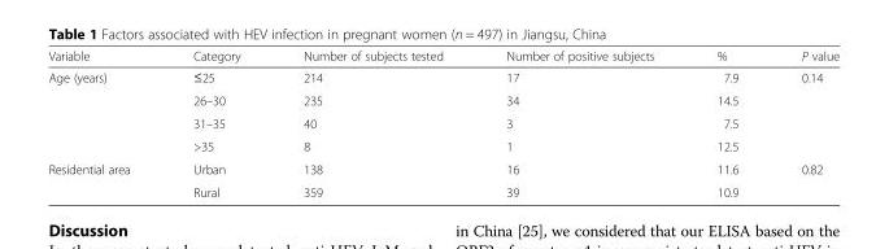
<table><thead><tr><td>Variable</td><td>Category</td><td>Number of subjects tested</td><td>Number of positive subjects</td><td>%</td><td>P value</td></tr></thead><tbody><tr><td rowspan="4">Age (years)</td><td>≤25</td><td>214</td><td>17</td><td>7.9</td><td>0.14</td></tr><tr><td>26–30</td><td>235</td><td>34</td><td>14.5</td><td></td></tr><tr><td>31–35</td><td>40</td><td>3</td><td>7.5</td><td></td></tr><tr><td>&gt;35</td><td>8</td><td>1</td><td>12.5</td><td></td></tr><tr><td rowspan="2">Residential area</td><td>Urban</td><td>138</td><td>16</td><td>11.6</td><td>0.82</td></tr><tr><td>Rural</td><td>359</td><td>39</td><td>10.9</td><td></td></tr></tbody></table>